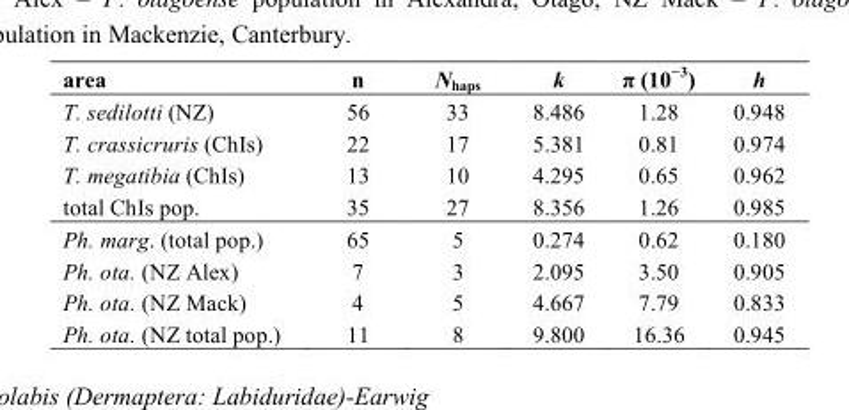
<table><thead><tr><td>area</td><td>n</td><td>N<sub>haps</sub></td><td>k</td><td>π (10<sup>−3</sup>)</td><td>h</td></tr></thead><tbody><tr><td>T. sedilotti (NZ)</td><td>56</td><td>33</td><td>8.486</td><td>1.28</td><td>0.948</td></tr><tr><td>T. crassicruris (ChIs)</td><td>22</td><td>17</td><td>5.381</td><td>0.81</td><td>0.974</td></tr><tr><td>T. megatibia (ChIs)</td><td>13</td><td>10</td><td>4.295</td><td>0.65</td><td>0.962</td></tr><tr><td>total ChIs pop.</td><td>35</td><td>27</td><td>8.356</td><td>1.26</td><td>0.985</td></tr><tr><td>Ph. marg. (total pop.)</td><td>65</td><td>5</td><td>0.274</td><td>0.62</td><td>0.180</td></tr><tr><td>Ph. ota. (NZ Alex)</td><td>7</td><td>3</td><td>2.095</td><td>3.50</td><td>0.905</td></tr><tr><td>Ph. ota. (NZ Mack)</td><td>4</td><td>5</td><td>4.667</td><td>7.79</td><td>0.833</td></tr><tr><td>Ph. ota. (NZ total pop.)</td><td>11</td><td>8</td><td>9.800</td><td>16.36</td><td>0.945</td></tr></tbody></table>